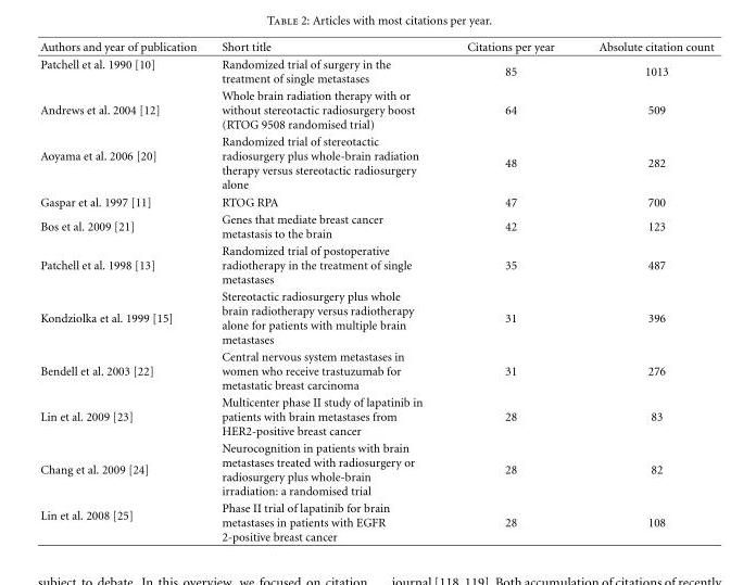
<table><thead><tr><td>Authors and year of publication</td><td>Short title</td><td>Citations per year</td><td>Absolute citation count</td></tr></thead><tbody><tr><td>Patchell et al. 1990 [10]</td><td>Randomized trial of surgery in the treatment of single metastases</td><td>85</td><td>1013</td></tr><tr><td>Andrews et al. 2004 [12]</td><td>Whole brain radiation therapy with or without stereotactic radiosurgery boost (RTOG 9508 randomised trial)</td><td>64</td><td>509</td></tr><tr><td>Aoyama et al. 2006 [20]</td><td>Randomized trial of stereotactic radiosurgery plus whole-brain radiation therapy versus stereotactic radiosurgery alone</td><td>48</td><td>282</td></tr><tr><td>Gaspar et al. 1997 [11]</td><td>RTOG RPA</td><td>47</td><td>700</td></tr><tr><td>Bos et al. 2009 [21]</td><td>Genes that mediate breast cancer metastasis to the brain</td><td>42</td><td>123</td></tr><tr><td>Patchell et al. 1998 [13]</td><td>Randomized trial of postoperative radiotherapy in the treatment of single metastases</td><td>35</td><td>487</td></tr><tr><td>Kondziolka et al. 1999 [15]</td><td>Stereotactic radiosurgery plus whole brain radiotherapy versus radiotherapy alone for patients with multiple brain metastases</td><td>31</td><td>396</td></tr><tr><td>Bendell et al. 2003 [22]</td><td>Central nervous system metastases in women who receive trastuzumab for metastatic breast carcinoma</td><td>31</td><td>276</td></tr><tr><td>Lin et al. 2009 [23]</td><td>Multicenter phase II study of lapatinib in patients with brain metastases from HER2-positive breast cancer</td><td>28</td><td>83</td></tr><tr><td>Chang et al. 2009 [24]</td><td>Neurocognition in patients with brain metastases treated with radiosurgery or radiosurgery plus whole-brain irradiation: a randomised trial</td><td>28</td><td>82</td></tr><tr><td>Lin et al. 2008 [25]</td><td>Phase II trial of lapatinib for brain metastases in patients with EGFR 2-positive breast cancer</td><td>28</td><td>108</td></tr></tbody></table>